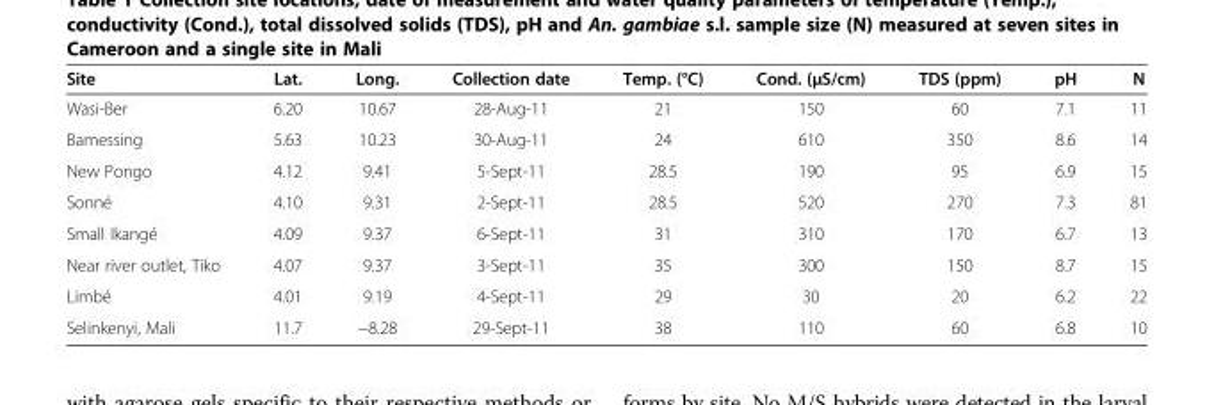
<table><thead><tr><td>Site</td><td>Lat.</td><td>Long.</td><td>Collection date</td><td>Temp. (°C)</td><td>Cond. (μS/cm)</td><td>TDS (ppm)</td><td>pH</td><td>N</td></tr></thead><tbody><tr><td>Wasi-Ber</td><td>6.20</td><td>10.67</td><td>28-Aug-11</td><td>21</td><td>150</td><td>60</td><td>7.1</td><td>11</td></tr><tr><td>Bamessing</td><td>5.63</td><td>10.23</td><td>30-Aug-11</td><td>24</td><td>610</td><td>350</td><td>8.6</td><td>14</td></tr><tr><td>New Pongo</td><td>4.12</td><td>9.41</td><td>5-Sept-11</td><td>28.5</td><td>190</td><td>95</td><td>6.9</td><td>15</td></tr><tr><td>Sonné</td><td>4.10</td><td>9.31</td><td>2-Sept-11</td><td>28.5</td><td>520</td><td>270</td><td>7.3</td><td>81</td></tr><tr><td>Small Ikangé</td><td>4.09</td><td>9.37</td><td>6-Sept-11</td><td>31</td><td>310</td><td>170</td><td>6.7</td><td>13</td></tr><tr><td>Near river outlet, Tiko</td><td>4.07</td><td>9.37</td><td>3-Sept-11</td><td>35</td><td>300</td><td>150</td><td>8.7</td><td>15</td></tr><tr><td>Limbé</td><td>4.01</td><td>9.19</td><td>4-Sept-11</td><td>29</td><td>30</td><td>20</td><td>6.2</td><td>22</td></tr><tr><td>Selinkenyi, Mali</td><td>11.7</td><td>−8.28</td><td>29-Sept-11</td><td>38</td><td>110</td><td>60</td><td>6.8</td><td>10</td></tr></tbody></table>